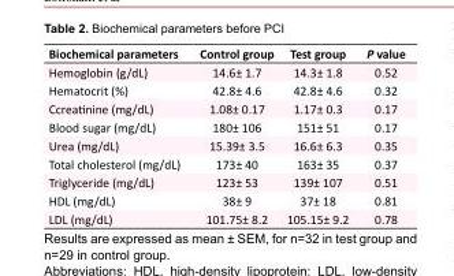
<table><tbody><tr><td>Biochemical parameters</td><td>Control group</td><td>Test group</td><td>P value</td></tr><tr><td>Hemoglobin (g/dL)</td><td>14.6± 1.7</td><td>14.3± 1.8</td><td>0.52</td></tr><tr><td>Hematocrit (%)</td><td>42.8± 4.6</td><td>42.8± 4.6</td><td>0.32</td></tr><tr><td>Ccreatinine (mg/dL)</td><td>1.08± 0.17</td><td>1.17± 0.3</td><td>0.17</td></tr><tr><td>Blood sugar (mg/dL)</td><td>180± 106</td><td>151± 51</td><td>0.17</td></tr><tr><td>Urea (mg/dL)</td><td>15.39± 3.5</td><td>16.6± 6.3</td><td>0.35</td></tr><tr><td>Total cholesterol (mg/dL)</td><td>173± 40</td><td>163± 35</td><td>0.37</td></tr><tr><td>Triglyceride (mg/dL)</td><td>123± 53</td><td>139± 107</td><td>0.51</td></tr><tr><td>HDL (mg/dL)</td><td>38± 9</td><td>37± 18</td><td>0.81</td></tr><tr><td>LDL (mg/dL)</td><td>101.75± 8.2</td><td>105.15± 9.2</td><td>0.78</td></tr></tbody></table>